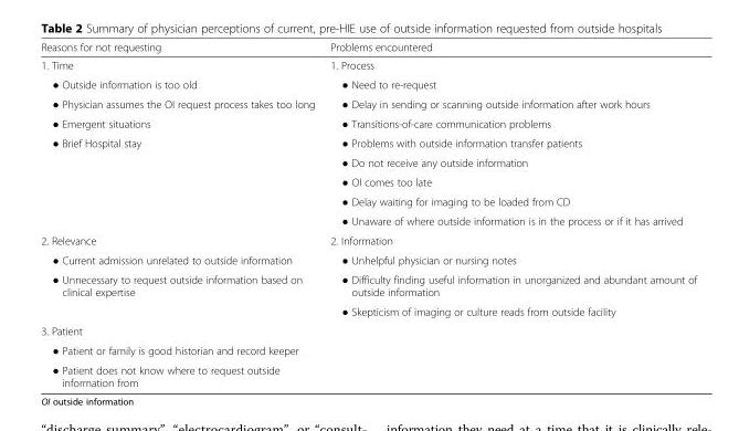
<table><thead><tr><td>Reasons for not requesting</td><td>Problems encountered</td></tr></thead><tbody><tr><td>1. Time</td><td>1. Process</td></tr><tr><td>● Outside information is too old</td><td>● Need to re-request</td></tr><tr><td>● Physician assumes the OI request process takes too long</td><td>● Delay in sending or scanning outside information after work hours</td></tr><tr><td>● Emergent situations</td><td>● Transitions-of-care communication problems</td></tr><tr><td rowspan="5">● Brief Hospital stay</td><td>● Problems with outside information transfer patients</td></tr><tr><td>● Do not receive any outside information</td></tr><tr><td>● OI comes too late</td></tr><tr><td>● Delay waiting for imaging to be loaded from CD</td></tr><tr><td>● Unaware of where outside information is in the process or if it has arrived</td></tr><tr><td>2. Relevance</td><td>2. Information</td></tr><tr><td>● Current admission unrelated to outside information</td><td>● Unhelpful physician or nursing notes</td></tr><tr><td rowspan="2">● Unnecessary to request outside information based on clinical expertise</td><td>● Difficulty finding useful information in unorganized and abundant amount of outside information</td></tr><tr><td>● Skepticism of imaging or culture reads from outside facility</td></tr><tr><td>3. Patient</td><td rowspan="3"></td></tr><tr><td>● Patient or family is good historian and record keeper</td></tr><tr><td>● Patient does not know where to request outside information from</td></tr></tbody></table>